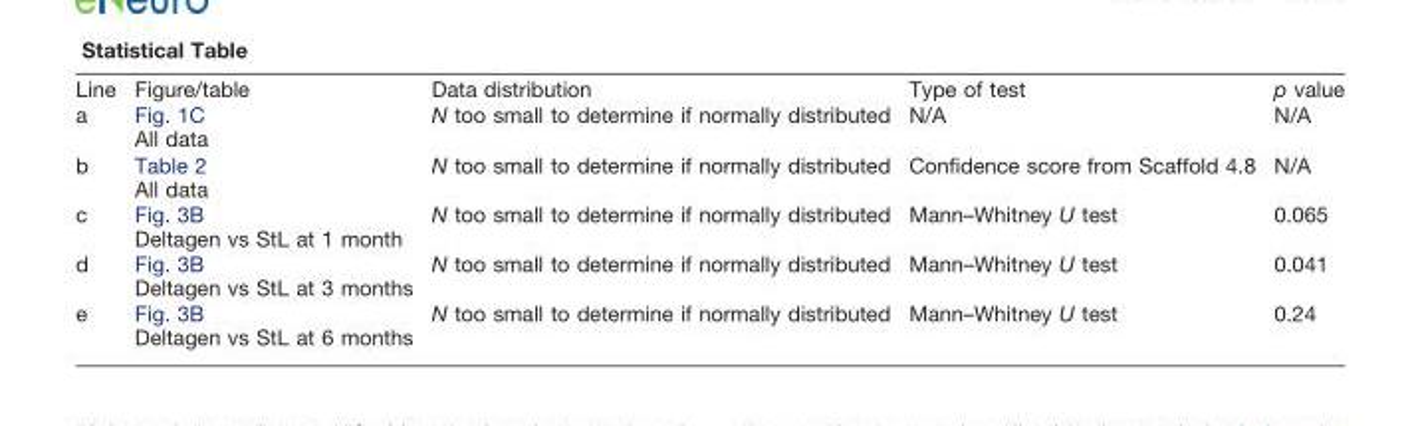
<table><thead><tr><td>Line</td><td>Figure/table</td><td>Data distribution</td><td>Type of test</td><td>p value</td></tr></thead><tbody><tr><td>a</td><td>Fig. 1C All data</td><td>N too small to determine if normally distributed</td><td>N/A</td><td>N/A</td></tr><tr><td>b</td><td>Table 2 All data</td><td>N too small to determine if normally distributed</td><td>Confidence score from Scaffold 4.8</td><td>N/A</td></tr><tr><td>c</td><td>Fig. 3B Deltagen vs StL at 1 month</td><td>N too small to determine if normally distributed</td><td>Mann–Whitney U test</td><td>0.065</td></tr><tr><td>d</td><td>Fig. 3B Deltagen vs StL at 3 months</td><td>N too small to determine if normally distributed</td><td>Mann–Whitney U test</td><td>0.041</td></tr><tr><td>e</td><td>Fig. 3B Deltagen vs StL at 6 months</td><td>N too small to determine if normally distributed</td><td>Mann–Whitney U test</td><td>0.24</td></tr></tbody></table>